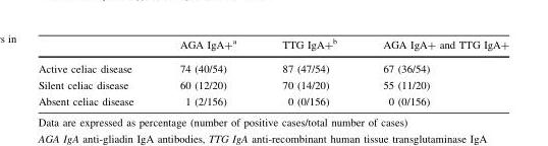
<table><thead><tr><td></td><td>AGA IgA+<sup>a</sup></td><td>TTG IgA+<sup>b</sup></td><td>AGA IgA+ and TTG IgA+</td></tr></thead><tbody><tr><td>Active celiac disease</td><td>74 (40/54)</td><td>87 (47/54)</td><td>67 (36/54)</td></tr><tr><td>Silent celiac disease</td><td>60 (12/20)</td><td>70 (14/20)</td><td>55 (11/20)</td></tr><tr><td>Absent celiac disease</td><td>1 (2/156)</td><td>0 (0/156)</td><td>0 (0/156)</td></tr></tbody></table>